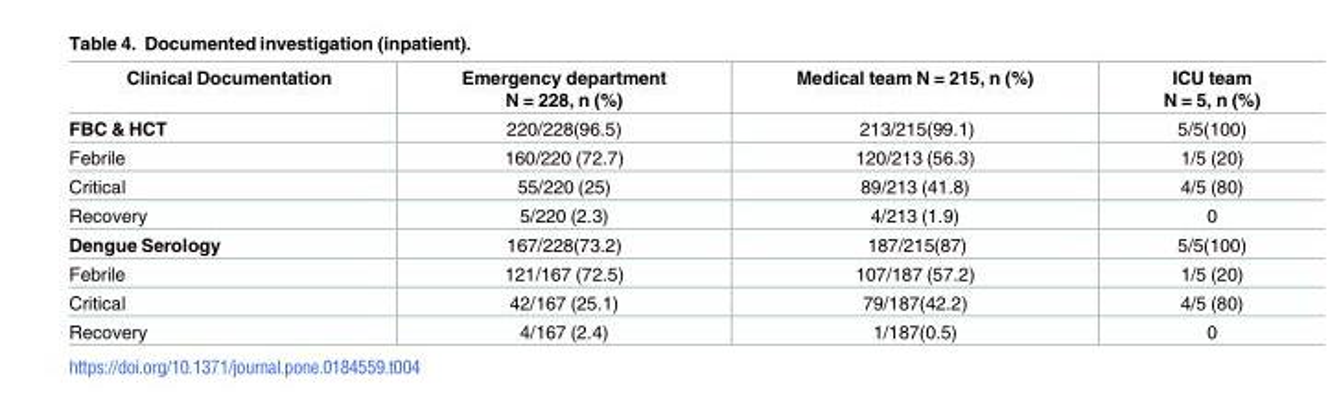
<table><thead><tr><td>Clinical Documentation</td><td>Emergency department N = 228, n (%)</td><td>Medical team N = 215, n (%)</td><td>ICU team N = 5, n (%)</td></tr></thead><tbody><tr><td>FBC &amp; HCT</td><td>220/228(96.5)</td><td>213/215(99.1)</td><td>5/5(100)</td></tr><tr><td>Febrile</td><td>160/220 (72.7)</td><td>120/213 (56.3)</td><td>1/5 (20)</td></tr><tr><td>Critical</td><td>55/220 (25)</td><td>89/213 (41.8)</td><td>4/5 (80)</td></tr><tr><td>Recovery</td><td>5/220 (2.3)</td><td>4/213 (1.9)</td><td>0</td></tr><tr><td>Dengue Serology</td><td>167/228(73.2)</td><td>187/215(87)</td><td>5/5(100)</td></tr><tr><td>Febrile</td><td>121/167 (72.5)</td><td>107/187 (57.2)</td><td>1/5 (20)</td></tr><tr><td>Critical</td><td>42/167 (25.1)</td><td>79/187(42.2)</td><td>4/5 (80)</td></tr><tr><td>Recovery</td><td>4/167 (2.4)</td><td>1/187(0.5)</td><td>0</td></tr></tbody></table>